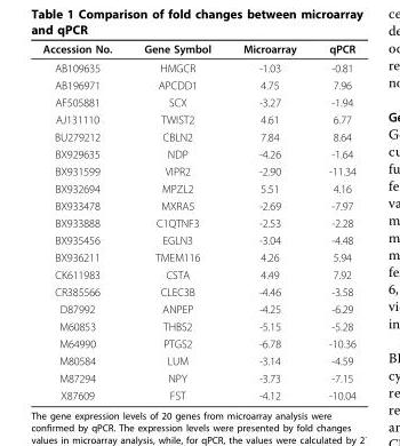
<table><thead><tr><td>Accession No.</td><td>Gene Symbol</td><td>Microarray</td><td>qPCR</td></tr></thead><tbody><tr><td>AB109635</td><td>HMGCR</td><td>-1.03</td><td>-0.81</td></tr><tr><td>AB196971</td><td>APCDD1</td><td>4.75</td><td>7.96</td></tr><tr><td>AF505881</td><td>SCX</td><td>-3.27</td><td>-1.94</td></tr><tr><td>AJ131110</td><td>TWIST2</td><td>4.61</td><td>6.77</td></tr><tr><td>BU279212</td><td>CBLN2</td><td>7.84</td><td>8.64</td></tr><tr><td>BX929635</td><td>NDP</td><td>-4.26</td><td>-1.64</td></tr><tr><td>BX931599</td><td>VIPR2</td><td>-2.90</td><td>-11.34</td></tr><tr><td>BX932694</td><td>MPZL2</td><td>5.51</td><td>4.16</td></tr><tr><td>BX933478</td><td>MXRA5</td><td>-2.69</td><td>-7.97</td></tr><tr><td>BX933888</td><td>C1QTNF3</td><td>-2.53</td><td>-2.28</td></tr><tr><td>BX935456</td><td>EGLN3</td><td>-3.04</td><td>-4.48</td></tr><tr><td>BX936211</td><td>TMEM116</td><td>4.26</td><td>5.94</td></tr><tr><td>CK611983</td><td>CSTA</td><td>4.49</td><td>7.92</td></tr><tr><td>CR385566</td><td>CLEC3B</td><td>-4.46</td><td>-3.58</td></tr><tr><td>D87992</td><td>ANPEP</td><td>-4.25</td><td>-6.29</td></tr><tr><td>M60853</td><td>THBS2</td><td>-5.15</td><td>-5.28</td></tr><tr><td>M64990</td><td>PTGS2</td><td>-6.78</td><td>-10.36</td></tr><tr><td>M80584</td><td>LUM</td><td>-3.14</td><td>-4.59</td></tr><tr><td>M87294</td><td>NPY</td><td>-3.73</td><td>-7.15</td></tr><tr><td>X87609</td><td>FST</td><td>-4.12</td><td>-10.04</td></tr></tbody></table>